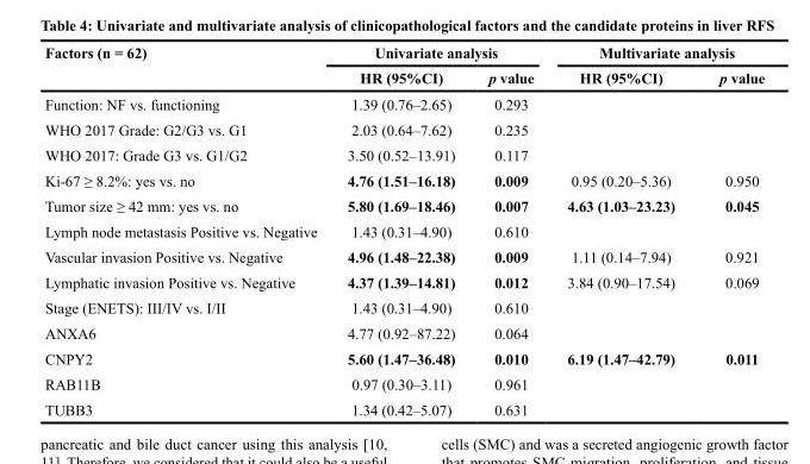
<table><thead><tr><td rowspan="2">Factors (n = 62)</td><td colspan="2">Univariate analysis</td><td colspan="2">Multivariate analysis</td></tr><tr><td>HR (95%CI)</td><td>p value</td><td>HR (95%CI)</td><td>p value</td></tr></thead><tbody><tr><td>Function: NF vs. functioning</td><td>1.39 (0.76–2.65)</td><td>0.293</td><td></td><td></td></tr><tr><td>WHO 2017 Grade: G2/G3 vs. G1</td><td>2.03 (0.64–7.62)</td><td>0.235</td><td></td><td></td></tr><tr><td>WHO 2017: Grade G3 vs. G1/G2</td><td>3.50 (0.52–13.91)</td><td>0.117</td><td></td><td></td></tr><tr><td>Ki-67 ≥ 8.2%: yes vs. no</td><td>4.76 (1.51–16.18)</td><td>0.009</td><td>0.95 (0.20–5.36)</td><td>0.950</td></tr><tr><td>Tumor size ≥ 42 mm: yes vs. no</td><td>5.80 (1.69–18.46)</td><td>0.007</td><td>4.63 (1.03–23.23)</td><td>0.045</td></tr><tr><td>Lymph node metastasis Positive vs. Negative</td><td>1.43 (0.31–4.90)</td><td>0.610</td><td></td><td></td></tr><tr><td>Vascular invasion Positive vs. Negative</td><td>4.96 (1.48–22.38)</td><td>0.009</td><td>1.11 (0.14–7.94)</td><td>0.921</td></tr><tr><td>Lymphatic invasion Positive vs. Negative</td><td>4.37 (1.39–14.81)</td><td>0.012</td><td>3.84 (0.90–17.54)</td><td>0.069</td></tr><tr><td>Stage (ENETS): III/IV vs. I/II</td><td>1.43 (0.31–4.90)</td><td>0.610</td><td></td><td></td></tr><tr><td>ANXA6</td><td>4.77 (0.92–87.22)</td><td>0.064</td><td></td><td></td></tr><tr><td>CNPY2</td><td>5.60 (1.47–36.48)</td><td>0.010</td><td>6.19 (1.47–42.79)</td><td>0.011</td></tr><tr><td>RAB11B</td><td>0.97 (0.30–3.11)</td><td>0.961</td><td></td><td></td></tr><tr><td>TUBB3</td><td>1.34 (0.42–5.07)</td><td>0.631</td><td></td><td></td></tr></tbody></table>